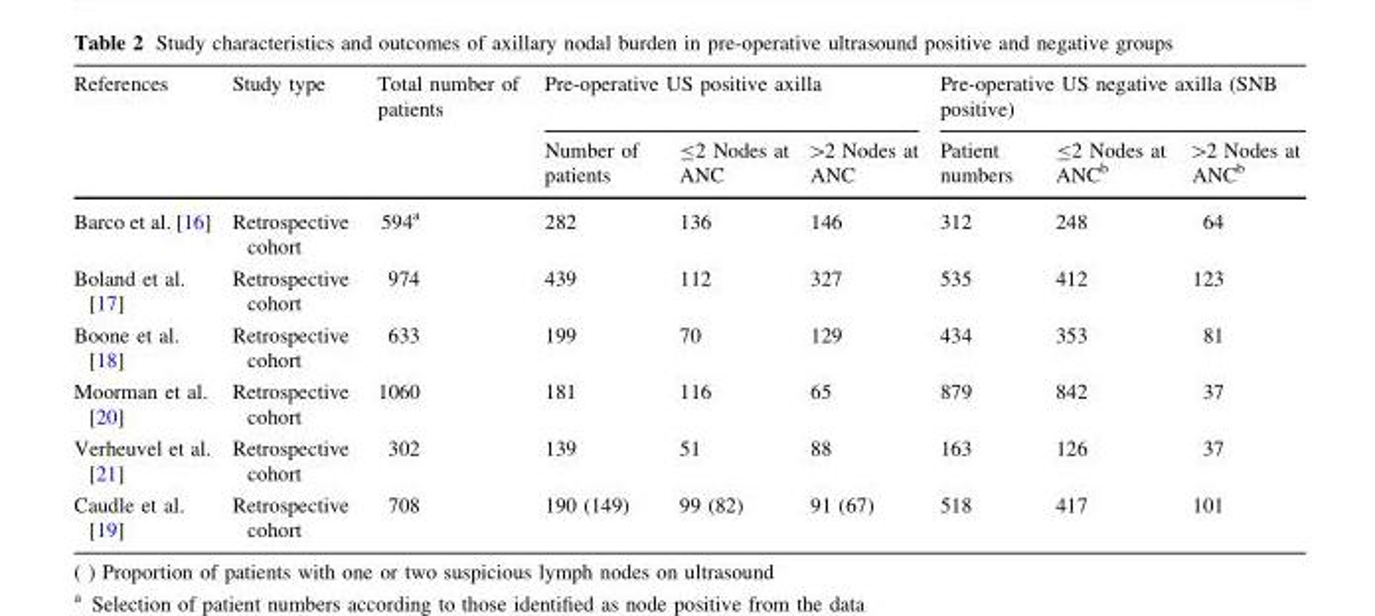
<table><thead><tr><td rowspan="2">References</td><td rowspan="2">Study type</td><td rowspan="2">Total number of patients</td><td colspan="3">Pre-operative US positive axilla</td><td colspan="3">Pre-operative US negative axilla (SNB positive)</td></tr><tr><td>Number of patients</td><td>≤2 Nodes at ANC</td><td>&gt;2 Nodes at ANC</td><td>Patient numbers</td><td>≤2 Nodes at ANC<sup>b</sup></td><td>&gt;2 Nodes at ANC<sup>b</sup></td></tr></thead><tbody><tr><td>Barco et al. [16]</td><td>Retrospective cohort</td><td>594<sup>a</sup></td><td>282</td><td>136</td><td>146</td><td>312</td><td>248</td><td>64</td></tr><tr><td>Boland et al. [17]</td><td>Retrospective cohort</td><td>974</td><td>439</td><td>112</td><td>327</td><td>535</td><td>412</td><td>123</td></tr><tr><td>Boone et al. [18]</td><td>Retrospective cohort</td><td>633</td><td>199</td><td>70</td><td>129</td><td>434</td><td>353</td><td>81</td></tr><tr><td>Moorman et al. [20]</td><td>Retrospective cohort</td><td>1060</td><td>181</td><td>116</td><td>65</td><td>879</td><td>842</td><td>37</td></tr><tr><td>Verheuvel et al. [21]</td><td>Retrospective cohort</td><td>302</td><td>139</td><td>51</td><td>88</td><td>163</td><td>126</td><td>37</td></tr><tr><td>Caudle et al. [19]</td><td>Retrospective cohort</td><td>708</td><td>190 (149)</td><td>99 (82)</td><td>91 (67)</td><td>518</td><td>417</td><td>101</td></tr></tbody></table>